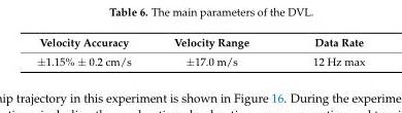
<table><thead><tr><td>Velocity Accuracy</td><td>Velocity Range</td><td>Data Rate</td></tr></thead><tbody><tr><td>±1.15% ± 0.2 cm/s</td><td>±17.0 m/s</td><td>12 Hz max</td></tr></tbody></table>